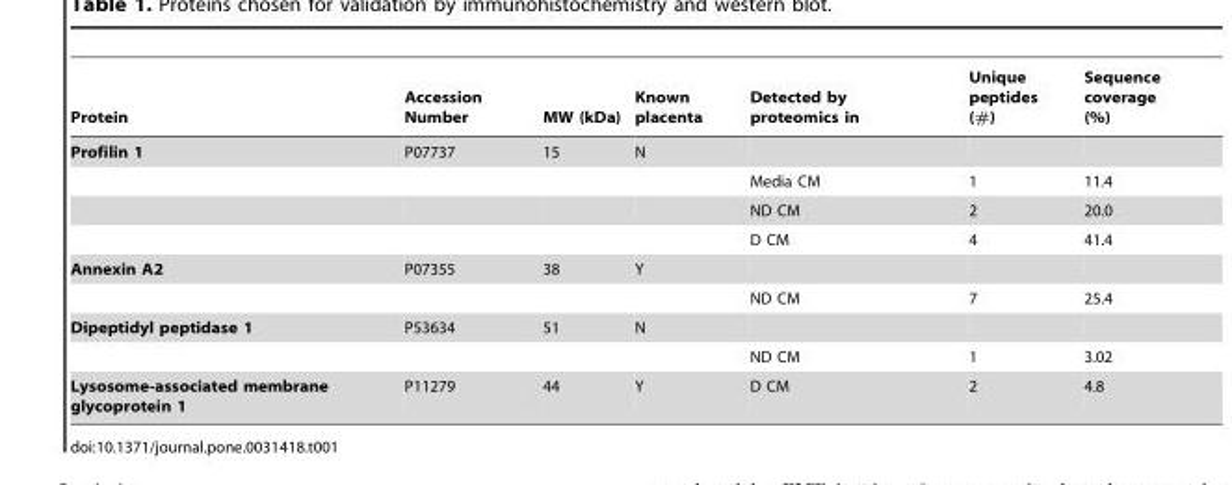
<table><thead><tr><td>Protein</td><td>Accession Number</td><td>MW (kDa)</td><td>Known placenta</td><td>Detected by proteomics in</td><td>Unique peptides (#)</td><td>Sequence coverage (%)</td></tr></thead><tbody><tr><td rowspan="4">Profilin 1</td><td>P07737</td><td>15</td><td>N</td><td></td><td></td><td></td></tr><tr><td></td><td></td><td></td><td>Media CM</td><td>1</td><td>11.4</td></tr><tr><td></td><td></td><td></td><td>ND CM</td><td>2</td><td>20.0</td></tr><tr><td></td><td></td><td></td><td>D CM</td><td>4</td><td>41.4</td></tr><tr><td rowspan="2">Annexin A2</td><td>P07355</td><td>38</td><td>Y</td><td></td><td></td><td></td></tr><tr><td></td><td></td><td></td><td>ND CM</td><td>7</td><td>25.4</td></tr><tr><td rowspan="2">Dipeptidyl peptidase 1</td><td>P53634</td><td>51</td><td>N</td><td></td><td></td><td></td></tr><tr><td></td><td></td><td></td><td>ND CM</td><td>1</td><td>3.02</td></tr><tr><td>Lysosome-associated membrane glycoprotein 1</td><td>P11279</td><td>44</td><td>Y</td><td>D CM</td><td>2</td><td>4.8</td></tr></tbody></table>